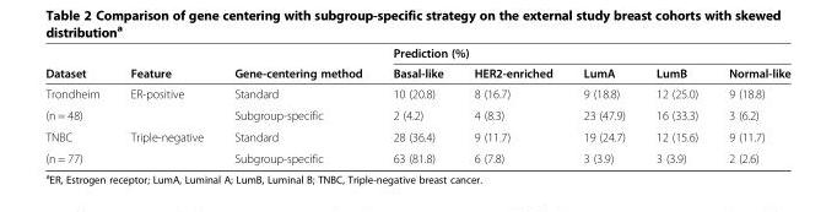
<table><thead><tr><td rowspan="2">Dataset</td><td rowspan="2">Feature</td><td rowspan="2">Gene-centering method</td><td colspan="5">Prediction (%)</td></tr><tr><td>Basal-like</td><td>HER2-enriched</td><td>LumA</td><td>LumB</td><td>Normal-like</td></tr></thead><tbody><tr><td>Trondheim</td><td>ER-positive</td><td>Standard</td><td>10 (20.8)</td><td>8 (16.7)</td><td>9 (18.8)</td><td>12 (25.0)</td><td>9 (18.8)</td></tr><tr><td>(n = 48)</td><td></td><td>Subgroup-specific</td><td>2 (4.2)</td><td>4 (8.3)</td><td>23 (47.9)</td><td>16 (33.3)</td><td>3 (6.2)</td></tr><tr><td>TNBC</td><td>Triple-negative</td><td>Standard</td><td>28 (36.4)</td><td>9 (11.7)</td><td>19 (24.7)</td><td>12 (15.6)</td><td>9 (11.7)</td></tr><tr><td>(n = 77)</td><td></td><td>Subgroup-specific</td><td>63 (81.8)</td><td>6 (7.8)</td><td>3 (3.9)</td><td>3 (3.9)</td><td>2 (2.6)</td></tr></tbody></table>